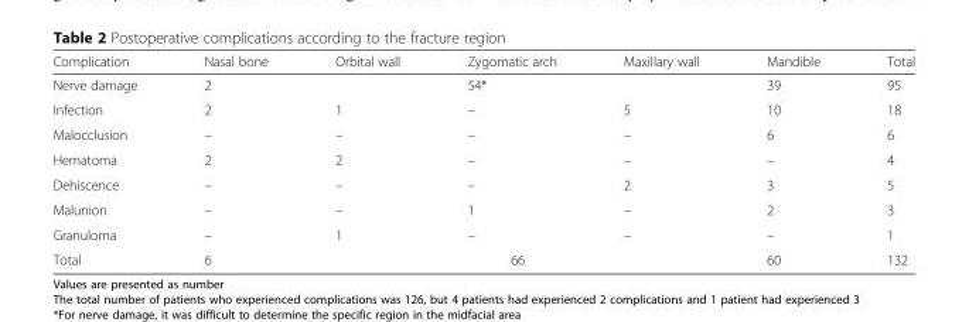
<table><thead><tr><td>Complication</td><td>Nasal bone</td><td>Orbital wall</td><td>Zygomatic arch</td><td>Maxillary wall</td><td>Mandible</td><td>Total</td></tr></thead><tbody><tr><td>Nerve damage</td><td>2</td><td></td><td>54*</td><td></td><td>39</td><td>95</td></tr><tr><td>Infection</td><td>2</td><td>1</td><td>–</td><td>5</td><td>10</td><td>18</td></tr><tr><td>Malocclusion</td><td>–</td><td>–</td><td>–</td><td>–</td><td>6</td><td>6</td></tr><tr><td>Hematoma</td><td>2</td><td>2</td><td>–</td><td>–</td><td>–</td><td>4</td></tr><tr><td>Dehiscence</td><td>–</td><td>–</td><td>–</td><td>2</td><td>3</td><td>5</td></tr><tr><td>Malunion</td><td>–</td><td>–</td><td>1</td><td>–</td><td>2</td><td>3</td></tr><tr><td>Granuloma</td><td>–</td><td>1</td><td>–</td><td>–</td><td>–</td><td>1</td></tr><tr><td>Total</td><td>6</td><td colspan="3">66</td><td>60</td><td>132</td></tr></tbody></table>